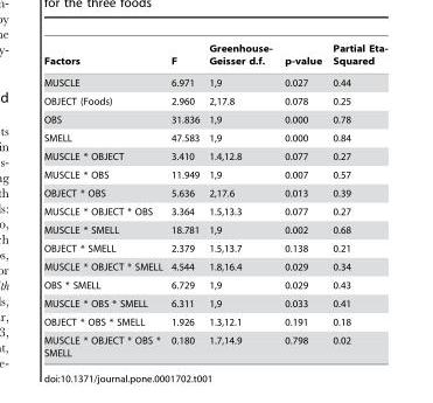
<table><thead><tr><td>Factors</td><td>F</td><td>Greenhouse- Geisser d.f.</td><td>p-value</td><td>Partial Eta- Squared</td></tr></thead><tbody><tr><td>MUSCLE</td><td>6.971</td><td>1,9</td><td>0.027</td><td>0.44</td></tr><tr><td>OBJECT (Foods)</td><td>2.960</td><td>2,17.8</td><td>0.078</td><td>0.25</td></tr><tr><td>OBS</td><td>31.836</td><td>1,9</td><td>0.000</td><td>0.78</td></tr><tr><td>SMELL</td><td>47.583</td><td>1,9</td><td>0.000</td><td>0.84</td></tr><tr><td>MUSCLE * OBJECT</td><td>3.410</td><td>1.4,12.8</td><td>0.077</td><td>0.27</td></tr><tr><td>MUSCLE * OBS</td><td>11.949</td><td>1,9</td><td>0.007</td><td>0.57</td></tr><tr><td>OBJECT * OBS</td><td>5.636</td><td>2,17.6</td><td>0.013</td><td>0.39</td></tr><tr><td>MUSCLE * OBJECT * OBS</td><td>3.364</td><td>1.5,13.3</td><td>0.077</td><td>0.27</td></tr><tr><td>MUSCLE * SMELL</td><td>18.781</td><td>1,9</td><td>0.002</td><td>0.68</td></tr><tr><td>OBJECT * SMELL</td><td>2.379</td><td>1.5,13.7</td><td>0.138</td><td>0.21</td></tr><tr><td>MUSCLE * OBJECT * SMELL</td><td>4.544</td><td>1.8,16.4</td><td>0.029</td><td>0.34</td></tr><tr><td>OBS * SMELL</td><td>6.729</td><td>1,9</td><td>0.029</td><td>0.43</td></tr><tr><td>MUSCLE * OBS * SMELL</td><td>6.311</td><td>1,9</td><td>0.033</td><td>0.41</td></tr><tr><td>OBJECT * OBS * SMELL</td><td>1.926</td><td>1.3,12.1</td><td>0.191</td><td>0.18</td></tr><tr><td>MUSCLE * OBJECT * OBS * SMELL</td><td>0.180</td><td>1.7,14.9</td><td>0.798</td><td>0.02</td></tr></tbody></table>